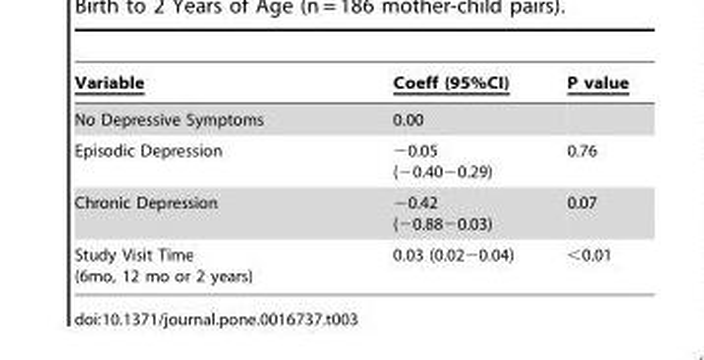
<table><thead><tr><td>Variable</td><td>Coeff (95%CI)</td><td>P value</td></tr></thead><tbody><tr><td>No Depressive Symptoms</td><td>0.00</td><td></td></tr><tr><td>Episodic Depression</td><td>−0.05 (−0.40−0.29)</td><td>0.76</td></tr><tr><td>Chronic Depression</td><td>−0.42 (−0.88−0.03)</td><td>0.07</td></tr><tr><td>Study Visit Time (6mo, 12 mo or 2 years)</td><td>0.03 (0.02−0.04)</td><td>&lt;0.01</td></tr></tbody></table>